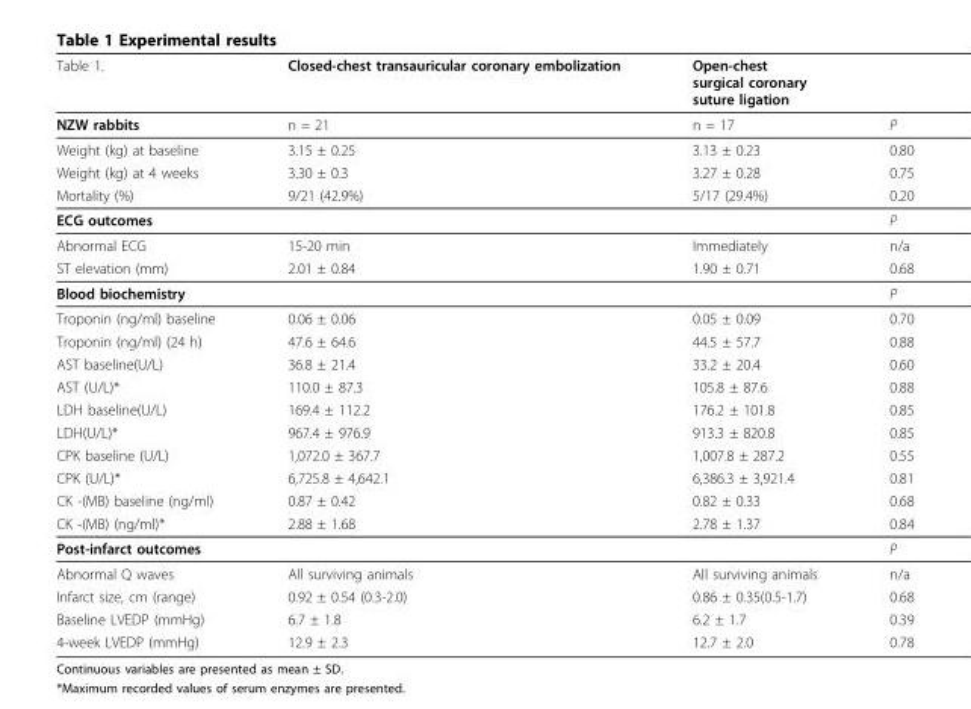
<table><thead><tr><td>Table 1.</td><td>Closed-chest transauricular coronary embolization</td><td>Open-chest surgical coronary suture ligation</td><td></td></tr></thead><tbody><tr><td>NZW rabbits</td><td>n = 21</td><td>n = 17</td><td>P</td></tr><tr><td>Weight (kg) at baseline</td><td>3.15 ± 0.25</td><td>3.13 ± 0.23</td><td>0.80</td></tr><tr><td>Weight (kg) at 4 weeks</td><td>3.30 ± 0.3</td><td>3.27 ± 0.28</td><td>0.75</td></tr><tr><td>Mortality (%)</td><td>9/21 (42.9%)</td><td>5/17 (29.4%)</td><td>0.20</td></tr><tr><td>ECG outcomes</td><td></td><td></td><td>P</td></tr><tr><td>Abnormal ECG</td><td>15-20 min</td><td>Immediately</td><td>n/a</td></tr><tr><td>ST elevation (mm)</td><td>2.01 ± 0.84</td><td>1.90 ± 0.71</td><td>0.68</td></tr><tr><td>Blood biochemistry</td><td></td><td></td><td>P</td></tr><tr><td>Troponin (ng/ml) baseline</td><td>0.06 ± 0.06</td><td>0.05 ± 0.09</td><td>0.70</td></tr><tr><td>Troponin (ng/ml) (24 h)</td><td>47.6 ± 64.6</td><td>44.5 ± 57.7</td><td>0.88</td></tr><tr><td>AST baseline(U/L)</td><td>36.8 ± 21.4</td><td>33.2 ± 20.4</td><td>0.60</td></tr><tr><td>AST (U/L)*</td><td>110.0 ± 87.3</td><td>105.8 ± 87.6</td><td>0.88</td></tr><tr><td>LDH baseline(U/L)</td><td>169.4 ± 112.2</td><td>176.2 ± 101.8</td><td>0.85</td></tr><tr><td>LDH(U/L)*</td><td>967.4 ± 976.9</td><td>913.3 ± 820.8</td><td>0.85</td></tr><tr><td>CPK baseline (U/L)</td><td>1,072.0 ± 367.7</td><td>1,007.8 ± 287.2</td><td>0.55</td></tr><tr><td>CPK (U/L)*</td><td>6,725.8 ± 4,642.1</td><td>6,386.3 ± 3,921.4</td><td>0.81</td></tr><tr><td>CK -(MB) baseline (ng/ml)</td><td>0.87 ± 0.42</td><td>0.82 ± 0.33</td><td>0.68</td></tr><tr><td>CK -(MB) (ng/ml)*</td><td>2.88 ± 1.68</td><td>2.78 ± 1.37</td><td>0.84</td></tr><tr><td>Post-infarct outcomes</td><td></td><td></td><td>P</td></tr><tr><td>Abnormal Q waves</td><td>All surviving animals</td><td>All surviving animals</td><td>n/a</td></tr><tr><td>Infarct size, cm (range)</td><td>0.92 ± 0.54 (0.3-2.0)</td><td>0.86 ± 0.35(0.5-1.7)</td><td>0.68</td></tr><tr><td>Baseline LVEDP (mmHg)</td><td>6.7 ± 1.8</td><td>6.2 ± 1.7</td><td>0.39</td></tr><tr><td>4-week LVEDP (mmHg)</td><td>12.9 ± 2.3</td><td>12.7 ± 2.0</td><td>0.78</td></tr></tbody></table>